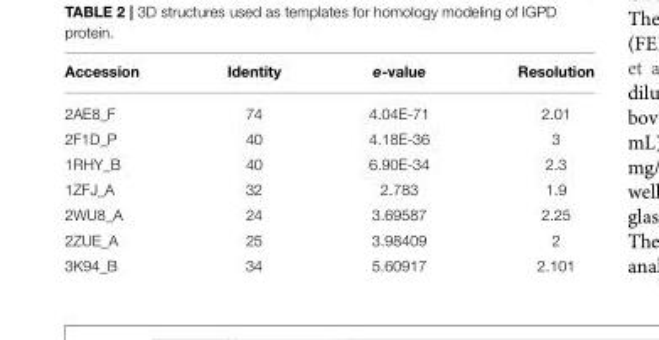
<table><thead><tr><td>Accession</td><td>Identity</td><td>e-value</td><td>Resolution</td></tr></thead><tbody><tr><td>2AE8_F</td><td>74</td><td>4.04E-71</td><td>2.01</td></tr><tr><td>2F1D_P</td><td>40</td><td>4.18E-36</td><td>3</td></tr><tr><td>1RHY_B</td><td>40</td><td>6.90E-34</td><td>2.3</td></tr><tr><td>1ZFJ_A</td><td>32</td><td>2.783</td><td>1.9</td></tr><tr><td>2WU8_A</td><td>24</td><td>3.69587</td><td>2.25</td></tr><tr><td>2ZUE_A</td><td>25</td><td>3.98409</td><td>2</td></tr><tr><td>3K94_B</td><td>34</td><td>5.60917</td><td>2.101</td></tr></tbody></table>